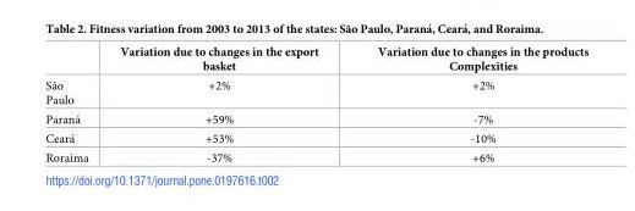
<table><thead><tr><td></td><td>Variation due to changes in the export basket</td><td>Variation due to changes in the products Complexities</td></tr></thead><tbody><tr><td>São Paulo</td><td>+2%</td><td>+2%</td></tr><tr><td>Parana´</td><td>+59%</td><td>-7%</td></tr><tr><td>Ceara´</td><td>+53%</td><td>-10%</td></tr><tr><td>Roraima</td><td>-37%</td><td>+6%</td></tr></tbody></table>